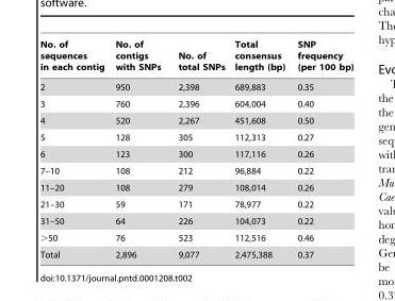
<table><thead><tr><td>No. of sequences in each contig</td><td>No. of contigs with SNPs</td><td>No. of total SNPs</td><td>Total consensus length (bp)</td><td>SNP frequency (per 100 bp)</td></tr></thead><tbody><tr><td>2</td><td>950</td><td>2,398</td><td>689,883</td><td>0.35</td></tr><tr><td>3</td><td>760</td><td>2,396</td><td>604,004</td><td>0.40</td></tr><tr><td>4</td><td>520</td><td>2,267</td><td>451,608</td><td>0.50</td></tr><tr><td>5</td><td>128</td><td>305</td><td>112,313</td><td>0.27</td></tr><tr><td>6</td><td>123</td><td>300</td><td>117,116</td><td>0.26</td></tr><tr><td>7–10</td><td>108</td><td>212</td><td>96,884</td><td>0.22</td></tr><tr><td>11–20</td><td>108</td><td>279</td><td>108,014</td><td>0.26</td></tr><tr><td>21–30</td><td>59</td><td>171</td><td>78,977</td><td>0.22</td></tr><tr><td>31–50</td><td>64</td><td>226</td><td>104,073</td><td>0.22</td></tr><tr><td>&gt;50</td><td>76</td><td>523</td><td>112,516</td><td>0.46</td></tr><tr><td>Total</td><td>2,896</td><td>9,077</td><td>2,475,388</td><td>0.37</td></tr></tbody></table>